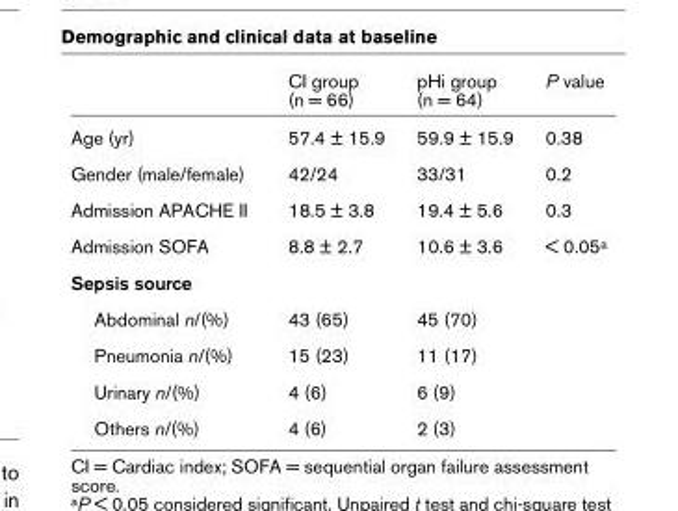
<table><thead><tr><td></td><td>CI group (n = 66)</td><td>pHi group (n = 64)</td><td>P value</td></tr></thead><tbody><tr><td>Age (yr)</td><td>57.4 ± 15.9</td><td>59.9 ± 15.9</td><td>0.38</td></tr><tr><td>Gender (male/female)</td><td>42/24</td><td>33/31</td><td>0.2</td></tr><tr><td>Admission APACHE II</td><td>18.5 ± 3.8</td><td>19.4 ± 5.6</td><td>0.3</td></tr><tr><td>Admission SOFA</td><td>8.8 ± 2.7</td><td>10.6 ± 3.6</td><td>&lt; 0.05<sup>a</sup></td></tr><tr><td colspan="4">Sepsis source</td></tr><tr><td>Abdominal n/(%)</td><td>43 (65)</td><td>45 (70)</td><td></td></tr><tr><td>Pneumonia n/(%)</td><td>15 (23)</td><td>11 (17)</td><td></td></tr><tr><td>Urinary n/(%)</td><td>4 (6)</td><td>6 (9)</td><td></td></tr><tr><td>Others n/(%)</td><td>4 (6)</td><td>2 (3)</td><td></td></tr></tbody></table>